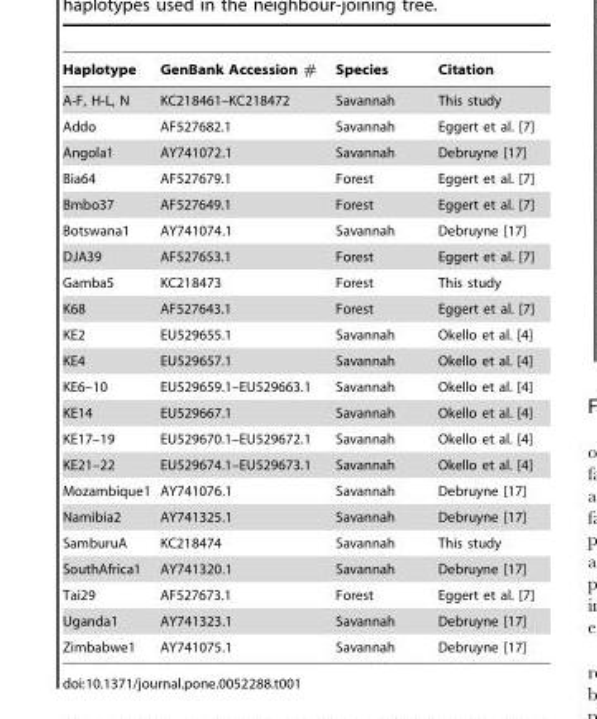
<table><thead><tr><td>Haplotype</td><td>GenBank Accession #</td><td>Species</td><td>Citation</td></tr></thead><tbody><tr><td>A-F, H-L, N</td><td>KC218461–KC218472</td><td>Savannah</td><td>This study</td></tr><tr><td>Addo</td><td>AF527682.1</td><td>Savannah</td><td>Eggert et al. [7]</td></tr><tr><td>Angola1</td><td>AY741072.1</td><td>Savannah</td><td>Debruyne [17]</td></tr><tr><td>Bia64</td><td>AF527679.1</td><td>Forest</td><td>Eggert et al. [7]</td></tr><tr><td>Bmbo37</td><td>AF527649.1</td><td>Forest</td><td>Eggert et al. [7]</td></tr><tr><td>Botswana1</td><td>AY741074.1</td><td>Savannah</td><td>Debruyne [17]</td></tr><tr><td>DJA39</td><td>AF527653.1</td><td>Forest</td><td>Eggert et al. [7]</td></tr><tr><td>Gamba5</td><td>KC218473</td><td>Forest</td><td>This study</td></tr><tr><td>K68</td><td>AF527643.1</td><td>Forest</td><td>Eggert et al. [7]</td></tr><tr><td>KE2</td><td>EU529655.1</td><td>Savannah</td><td>Okello et al. [4]</td></tr><tr><td>KE4</td><td>EU529657.1</td><td>Savannah</td><td>Okello et al. [4]</td></tr><tr><td>KE6–10</td><td>EU529659.1–EU529663.1</td><td>Savannah</td><td>Okello et al. [4]</td></tr><tr><td>KE14</td><td>EU529667.1</td><td>Savannah</td><td>Okello et al. [4]</td></tr><tr><td>KE17–19</td><td>EU529670.1–EU529672.1</td><td>Savannah</td><td>Okello et al. [4]</td></tr><tr><td>KE21–22</td><td>EU529674.1–EU529673.1</td><td>Savannah</td><td>Okello et al. [4]</td></tr><tr><td>Mozambique1</td><td>AY741076.1</td><td>Savannah</td><td>Debruyne [17]</td></tr><tr><td>Namibia2</td><td>AY741325.1</td><td>Savannah</td><td>Debruyne [17]</td></tr><tr><td>SamburuA</td><td>KC218474</td><td>Savannah</td><td>This study</td></tr><tr><td>SouthAfrica1</td><td>AY741320.1</td><td>Savannah</td><td>Debruyne [17]</td></tr><tr><td>Tai29</td><td>AF527673.1</td><td>Forest</td><td>Eggert et al. [7]</td></tr><tr><td>Uganda1</td><td>AY741323.1</td><td>Savannah</td><td>Debruyne [17]</td></tr><tr><td>Zimbabwe1</td><td>AY741075.1</td><td>Savannah</td><td>Debruyne [17]</td></tr></tbody></table>